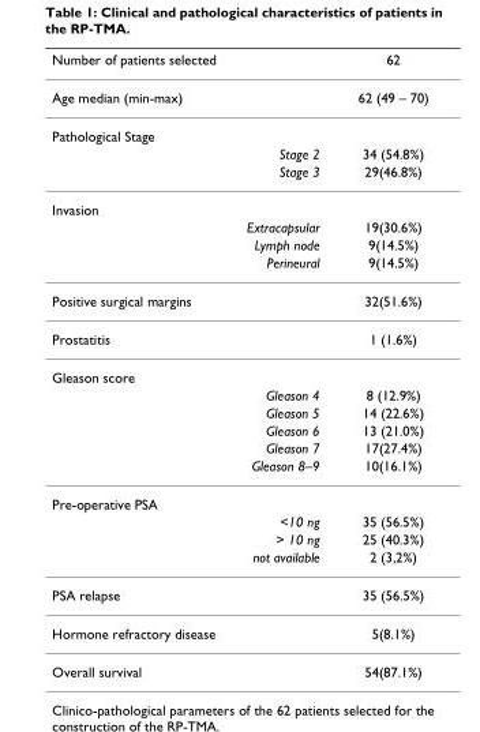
<table><thead><tr><td>Number of patients selected</td><td>62</td></tr></thead><tbody><tr><td>Age median (min-max)</td><td>62 (49 – 70)</td></tr><tr><td colspan="2">Pathological Stage</td></tr><tr><td>Stage 2</td><td>34 (54.8%)</td></tr><tr><td>Stage 3</td><td>29(46.8%)</td></tr><tr><td colspan="2">Invasion</td></tr><tr><td>Extracapsular</td><td>19(30.6%)</td></tr><tr><td>Lymph node</td><td>9(14.5%)</td></tr><tr><td>Perineural</td><td>9(14.5%)</td></tr><tr><td>Positive surgical margins</td><td>32(51.6%)</td></tr><tr><td>Prostatitis</td><td>1 (1.6%)</td></tr><tr><td colspan="2">Gleason score</td></tr><tr><td>Gleason 4</td><td>8 (12.9%)</td></tr><tr><td>Gleason 5</td><td>14 (22.6%)</td></tr><tr><td>Gleason 6</td><td>13 (21.0%)</td></tr><tr><td>Gleason 7</td><td>17(27.4%)</td></tr><tr><td>Gleason 8–9</td><td>10(16.1%)</td></tr><tr><td colspan="2">Pre-operative PSA</td></tr><tr><td>&lt;10 ng</td><td>35 (56.5%)</td></tr><tr><td>&gt; 10 ng</td><td>25 (40.3%)</td></tr><tr><td>not available</td><td>2 (3,2%)</td></tr><tr><td>PSA relapse</td><td>35 (56.5%)</td></tr><tr><td>Hormone refractory disease</td><td>5(8.1%)</td></tr><tr><td>Overall survival</td><td>54(87.1%)</td></tr></tbody></table>